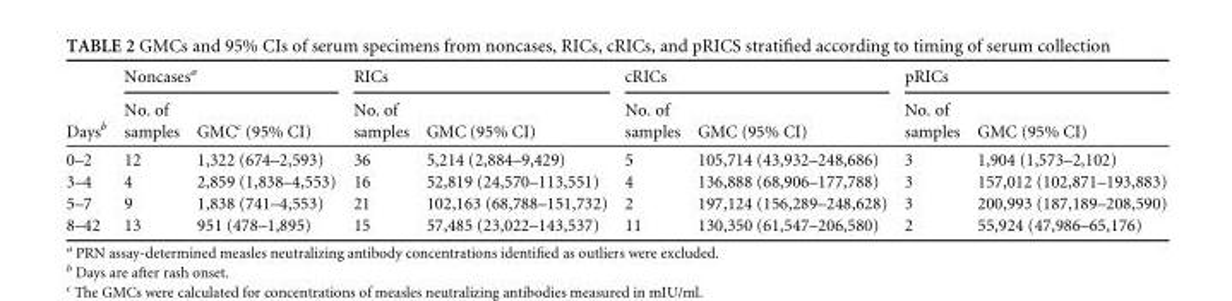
<table><thead><tr><td rowspan="2">Days<sup>b</sup></td><td colspan="2">Noncases<sup>a</sup></td><td colspan="2">RICs</td><td colspan="2">cRICs</td><td colspan="2">pRICs</td></tr><tr><td>No. of samples</td><td>GMC<sup>c</sup> (95% CI)</td><td>No. of samples</td><td>GMC (95% CI)</td><td>No. of samples</td><td>GMC (95% CI)</td><td>No. of samples</td><td>GMC (95% CI)</td></tr></thead><tbody><tr><td>0–2</td><td>12</td><td>1,322 (674–2,593)</td><td>36</td><td>5,214 (2,884–9,429)</td><td>5</td><td>105,714 (43,932–248,686)</td><td>3</td><td>1,904 (1,573–2,102)</td></tr><tr><td>3–4</td><td>4</td><td>2,859 (1,838–4,553)</td><td>16</td><td>52,819 (24,570–113,551)</td><td>4</td><td>136,888 (68,906–177,788)</td><td>3</td><td>157,012 (102,871–193,883)</td></tr><tr><td>5–7</td><td>9</td><td>1,838 (741–4,553)</td><td>21</td><td>102,163 (68,788–151,732)</td><td>2</td><td>197,124 (156,289–248,628)</td><td>3</td><td>200,993 (187,189–208,590)</td></tr><tr><td>8–42</td><td>13</td><td>951 (478–1,895)</td><td>15</td><td>57,485 (23,022–143,537)</td><td>11</td><td>130,350 (61,547–206,580)</td><td>2</td><td>55,924 (47,986–65,176)</td></tr></tbody></table>